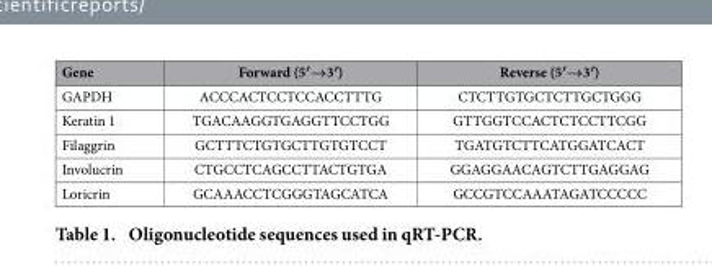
<table><thead><tr><td>Gene</td><td>Forward (5′→3′)</td><td>Reverse (5′→3′)</td></tr></thead><tbody><tr><td>GAPDH</td><td>ACCCACTCCTCCACCTTTG</td><td>CTCTTGTGCTCTTGCTGGG</td></tr><tr><td>Keratin 1</td><td>TGACAAGGTGAGGTTCCTGG</td><td>GTTGGTCCACTCTCCTTCGG</td></tr><tr><td>Filaggrin</td><td>GCTTTCTGTGCTTGTGTCCT</td><td>TGATGTCTTCATGGATCACT</td></tr><tr><td>Involucrin</td><td>CTGCCTCAGCCTTACTGTGA</td><td>GGAGGAACAGTCTTGAGGAG</td></tr><tr><td>Loricrin</td><td>GCAAACCTCGGGTAGCATCA</td><td>GCCGTCCAAATAGATCCCCC</td></tr></tbody></table>